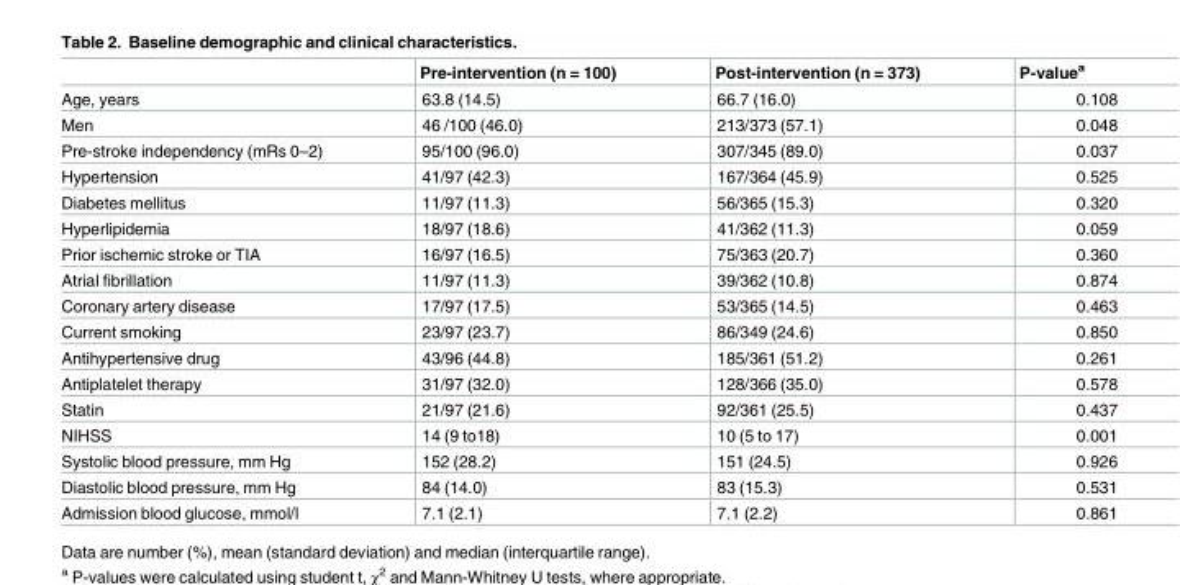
<table><thead><tr><td></td><td>Pre-intervention (n = 100)</td><td>Post-intervention (n = 373)</td><td>P-value<sup>a</sup></td></tr></thead><tbody><tr><td>Age, years</td><td>63.8 (14.5)</td><td>66.7 (16.0)</td><td>0.108</td></tr><tr><td>Men</td><td>46 /100 (46.0)</td><td>213/373 (57.1)</td><td>0.048</td></tr><tr><td>Pre-stroke independency (mRs 0–2)</td><td>95/100 (96.0)</td><td>307/345 (89.0)</td><td>0.037</td></tr><tr><td>Hypertension</td><td>41/97 (42.3)</td><td>167/364 (45.9)</td><td>0.525</td></tr><tr><td>Diabetes mellitus</td><td>11/97 (11.3)</td><td>56/365 (15.3)</td><td>0.320</td></tr><tr><td>Hyperlipidemia</td><td>18/97 (18.6)</td><td>41/362 (11.3)</td><td>0.059</td></tr><tr><td>Prior ischemic stroke or TIA</td><td>16/97 (16.5)</td><td>75/363 (20.7)</td><td>0.360</td></tr><tr><td>Atrial fibrillation</td><td>11/97 (11.3)</td><td>39/362 (10.8)</td><td>0.874</td></tr><tr><td>Coronary artery disease</td><td>17/97 (17.5)</td><td>53/365 (14.5)</td><td>0.463</td></tr><tr><td>Current smoking</td><td>23/97 (23.7)</td><td>86/349 (24.6)</td><td>0.850</td></tr><tr><td>Antihypertensive drug</td><td>43/96 (44.8)</td><td>185/361 (51.2)</td><td>0.261</td></tr><tr><td>Antiplatelet therapy</td><td>31/97 (32.0)</td><td>128/366 (35.0)</td><td>0.578</td></tr><tr><td>Statin</td><td>21/97 (21.6)</td><td>92/361 (25.5)</td><td>0.437</td></tr><tr><td>NIHSS</td><td>14 (9 to18)</td><td>10 (5 to 17)</td><td>0.001</td></tr><tr><td>Systolic blood pressure, mm Hg</td><td>152 (28.2)</td><td>151 (24.5)</td><td>0.926</td></tr><tr><td>Diastolic blood pressure, mm Hg</td><td>84 (14.0)</td><td>83 (15.3)</td><td>0.531</td></tr><tr><td>Admission blood glucose, mmol/l</td><td>7.1 (2.1)</td><td>7.1 (2.2)</td><td>0.861</td></tr></tbody></table>